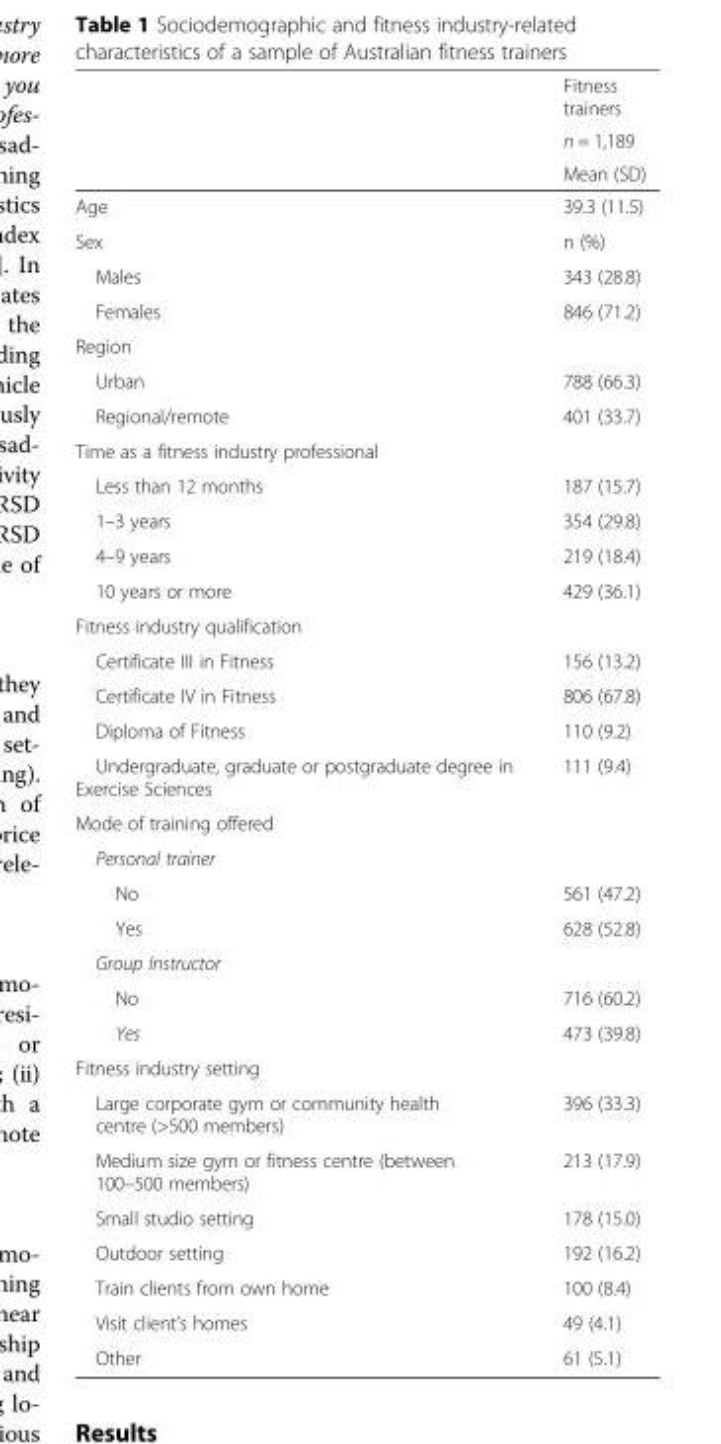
<table><thead><tr><td rowspan="3"></td><td rowspan="3">Fitness trainers n = 1,189 Mean (SD)</td></tr><tr></tr><tr></tr></thead><tbody><tr><td>Age</td><td>39.3 (11.5)</td></tr><tr><td>Sex</td><td>n (%)</td></tr><tr><td>Males</td><td>343 (28.8)</td></tr><tr><td>Females</td><td>846 (71.2)</td></tr><tr><td colspan="2">Region</td></tr><tr><td>Urban</td><td>788 (66.3)</td></tr><tr><td>Regional/remote</td><td>401 (33.7)</td></tr><tr><td colspan="2">Time as a fitness industry professional</td></tr><tr><td>Less than 12 months</td><td>187 (15.7)</td></tr><tr><td>1–3 years</td><td>354 (29.8)</td></tr><tr><td>4–9 years</td><td>219 (18.4)</td></tr><tr><td>10 years or more</td><td>429 (36.1)</td></tr><tr><td colspan="2">Fitness industry qualification</td></tr><tr><td>Certificate III in Fitness</td><td>156 (13.2)</td></tr><tr><td>Certificate IV in Fitness</td><td>806 (67.8)</td></tr><tr><td>Diploma of Fitness</td><td>110 (9.2)</td></tr><tr><td>Undergraduate, graduate or postgraduate degree in Exercise Sciences</td><td>111 (9.4)</td></tr><tr><td colspan="2">Mode of training offered</td></tr><tr><td colspan="2">Personal trainer</td></tr><tr><td>No</td><td>561 (47.2)</td></tr><tr><td>Yes</td><td>628 (52.8)</td></tr><tr><td colspan="2">Group Instructor</td></tr><tr><td>No</td><td>716 (60.2)</td></tr><tr><td>Yes</td><td>473 (39.8)</td></tr><tr><td colspan="2">Fitness industry setting</td></tr><tr><td>Large corporate gym or community health centre (&gt;500 members)</td><td>396 (33.3)</td></tr><tr><td>Medium size gym or fitness centre (between 100–500 members)</td><td>213 (17.9)</td></tr><tr><td>Small studio setting</td><td>178 (15.0)</td></tr><tr><td>Outdoor setting</td><td>192 (16.2)</td></tr><tr><td>Train clients from own home</td><td>100 (8.4)</td></tr><tr><td>Visit client’s homes</td><td>49 (4.1)</td></tr><tr><td>Other</td><td>61 (5.1)</td></tr></tbody></table>